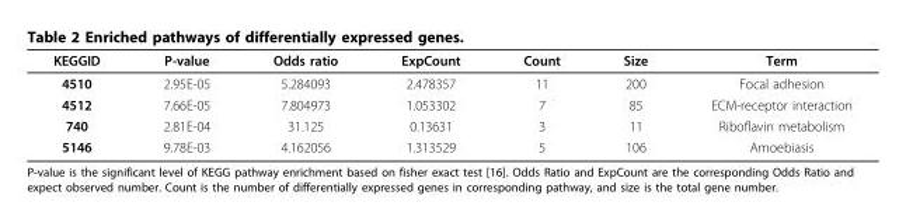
<table><thead><tr><td>KEGGID</td><td>P-value</td><td>Odds ratio</td><td>ExpCount</td><td>Count</td><td>Size</td><td>Term</td></tr></thead><tbody><tr><td>4510</td><td>2.95E-05</td><td>5.284093</td><td>2.478357</td><td>11</td><td>200</td><td>Focal adhesion</td></tr><tr><td>4512</td><td>7.66E-05</td><td>7.804973</td><td>1.053302</td><td>7</td><td>85</td><td>ECM-receptor interaction</td></tr><tr><td>740</td><td>2.81E-04</td><td>31.125</td><td>0.13631</td><td>3</td><td>11</td><td>Riboflavin metabolism</td></tr><tr><td>5146</td><td>9.78E-03</td><td>4.162056</td><td>1.313529</td><td>5</td><td>106</td><td>Amoebiasis</td></tr></tbody></table>